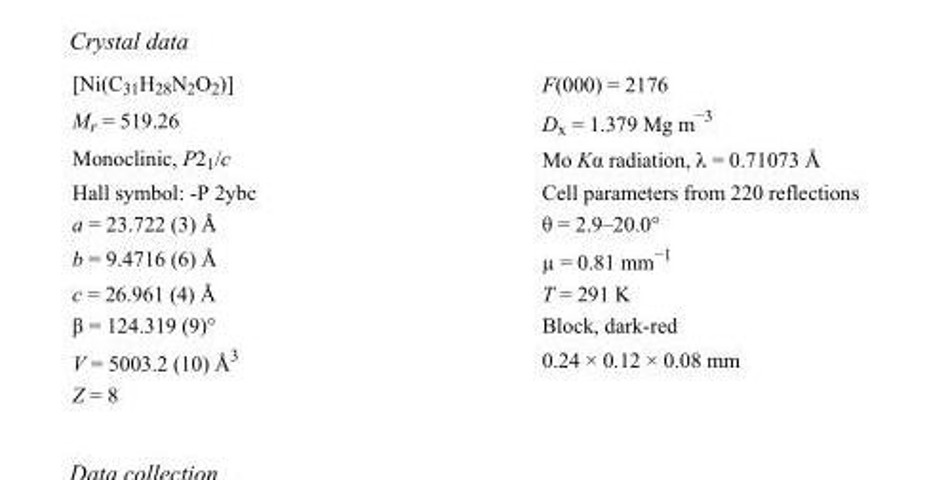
<table><tbody><tr><td>[Ni(C<sub>31</sub>H<sub>28</sub>N<sub>2</sub>O<sub>2</sub>)]</td><td>F(000) = 2176</td></tr><tr><td>M<sub>r</sub> = 519.26</td><td>D<sub>x</sub> = 1.379 Mg m<sup>−3</sup></td></tr><tr><td>Monoclinic, P2<sub>1</sub>/c</td><td>Mo Kα radiation, λ = 0.71073 Å</td></tr><tr><td>Hall symbol: -P 2ybc</td><td>Cell parameters from 220 reflections</td></tr><tr><td>a = 23.722 (3) Å</td><td>θ = 2.9–20.0°</td></tr><tr><td>b = 9.4716 (6) Å</td><td>µ = 0.81 mm<sup>−1</sup></td></tr><tr><td>c = 26.961 (4) Å</td><td>T = 291 K</td></tr><tr><td>β = 124.319 (9)°</td><td>Block, dark-red</td></tr><tr><td>V = 5003.2 (10) Å<sup>3</sup></td><td>0.24 × 0.12 × 0.08 mm</td></tr><tr><td>Z = 8</td><td></td></tr></tbody></table>